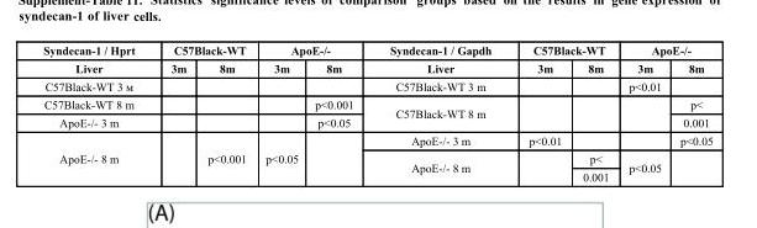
<table><thead><tr><td rowspan="2">Syndecan-1 / Hprt Liver</td><td colspan="2">C57Black-WT</td><td colspan="2">ApoE-/-</td><td rowspan="2">Syndecan-1 / Gapdh Liver</td><td colspan="2">C57Black-WT</td><td colspan="2">ApoE-/-</td></tr><tr><td>3m</td><td>8m</td><td>3m</td><td>8m</td><td>3m</td><td>8m</td><td>3m</td><td>8m</td></tr></thead><tbody><tr><td>C57Black-WT 3 м</td><td></td><td></td><td></td><td></td><td>C57Black-WT 3 m</td><td></td><td></td><td>p&lt;0.01</td><td></td></tr><tr><td>C57Black-WT 8 m</td><td></td><td></td><td></td><td>p&lt;0.001</td><td rowspan="2">C57Black-WT 8 m</td><td rowspan="2"></td><td rowspan="2"></td><td rowspan="2"></td><td>p&lt;</td></tr><tr><td>АроЕ-/- 3 m</td><td></td><td></td><td></td><td>p&lt;0.05</td><td>0.001</td></tr><tr><td rowspan="3">АроЕ-/- 8 m</td><td rowspan="3"></td><td rowspan="3">p&lt;0.001</td><td rowspan="3">p&lt;0.05</td><td rowspan="3"></td><td>АроЕ-/- 3 m</td><td>p&lt;0.01</td><td></td><td></td><td>p&lt;0.05</td></tr><tr><td rowspan="2">АроЕ-/- 8 m</td><td rowspan="2"></td><td>p&lt;</td><td rowspan="2">p&lt;0.05</td><td rowspan="2"></td></tr><tr><td>0.001</td></tr></tbody></table>